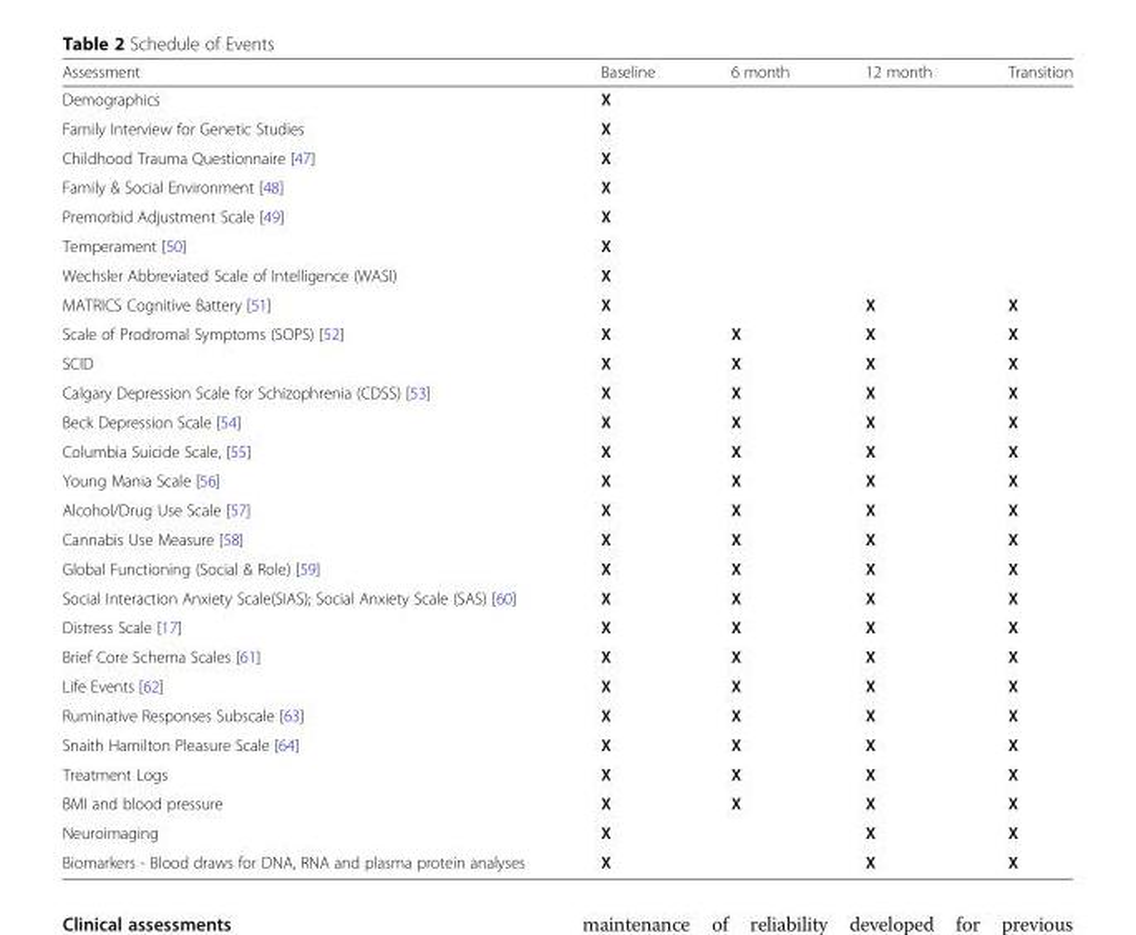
<table><thead><tr><td>Assessment</td><td>Baseline</td><td>6 month</td><td>12 month</td><td>Transition</td></tr></thead><tbody><tr><td>Demographics</td><td>X</td><td></td><td></td><td></td></tr><tr><td>Family Interview for Genetic Studies</td><td>X</td><td></td><td></td><td></td></tr><tr><td>Childhood Trauma Questionnaire [47]</td><td>X</td><td></td><td></td><td></td></tr><tr><td>Family &amp; Social Environment [48]</td><td>X</td><td></td><td></td><td></td></tr><tr><td>Premorbid Adjustment Scale [49]</td><td>X</td><td></td><td></td><td></td></tr><tr><td>Temperament [50]</td><td>X</td><td></td><td></td><td></td></tr><tr><td>Wechsler Abbreviated Scale of Intelligence (WASI)</td><td>X</td><td></td><td></td><td></td></tr><tr><td>MATRICS Cognitive Battery [51]</td><td>X</td><td></td><td>X</td><td>X</td></tr><tr><td>Scale of Prodromal Symptoms (SOPS) [52]</td><td>X</td><td>X</td><td>X</td><td>X</td></tr><tr><td>SCID</td><td>X</td><td>X</td><td>X</td><td>X</td></tr><tr><td>Calgary Depression Scale for Schizophrenia (CDSS) [53]</td><td>X</td><td>X</td><td>X</td><td>X</td></tr><tr><td>Beck Depression Scale [54]</td><td>X</td><td>X</td><td>X</td><td>X</td></tr><tr><td>Columbia Suicide Scale, [55]</td><td>X</td><td>X</td><td>X</td><td>X</td></tr><tr><td>Young Mania Scale [56]</td><td>X</td><td>X</td><td>X</td><td>X</td></tr><tr><td>Alcohol/Drug Use Scale [57]</td><td>X</td><td>X</td><td>X</td><td>X</td></tr><tr><td>Cannabis Use Measure [58]</td><td>X</td><td>X</td><td>X</td><td>X</td></tr><tr><td>Global Functioning (Social &amp; Role) [59]</td><td>X</td><td>X</td><td>X</td><td>X</td></tr><tr><td>Social Interaction Anxiety Scale(SIAS); Social Anxiety Scale (SAS) [60]</td><td>X</td><td>X</td><td>X</td><td>X</td></tr><tr><td>Distress Scale [17]</td><td>X</td><td>X</td><td>X</td><td>X</td></tr><tr><td>Brief Core Schema Scales [61]</td><td>X</td><td>X</td><td>X</td><td>X</td></tr><tr><td>Life Events [62]</td><td>X</td><td>X</td><td>X</td><td>X</td></tr><tr><td>Ruminative Responses Subscale [63]</td><td>X</td><td>X</td><td>X</td><td>X</td></tr><tr><td>Snaith Hamilton Pleasure Scale [64]</td><td>X</td><td>X</td><td>X</td><td>X</td></tr><tr><td>Treatment Logs</td><td>X</td><td>X</td><td>X</td><td>X</td></tr><tr><td>BMI and blood pressure</td><td>X</td><td>X</td><td>X</td><td>X</td></tr><tr><td>Neuroimaging</td><td>X</td><td></td><td>X</td><td>X</td></tr><tr><td>Biomarkers - Blood draws for DNA, RNA and plasma protein analyses</td><td>X</td><td></td><td>X</td><td>X</td></tr></tbody></table>